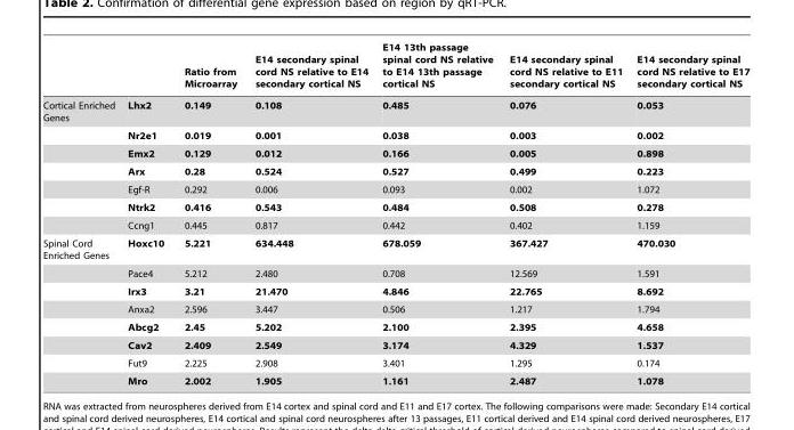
<table><thead><tr><td></td><td></td><td>Ratio from Microarray</td><td>E14 secondary spinal cord NS relative to E14 secondary cortical NS</td><td>E14 13th passage spinal cord NS relative to E14 13th passage cortical NS</td><td>E14 secondary spinal cord NS relative to E11 secondary cortical NS</td><td>E14 secondary spinal cord NS relative to E17 secondary cortical NS</td></tr></thead><tbody><tr><td rowspan="7">Cortical Enriched Genes</td><td>Lhx2</td><td>0.149</td><td>0.108</td><td>0.485</td><td>0.076</td><td>0.053</td></tr><tr><td>Nr2e1</td><td>0.019</td><td>0.001</td><td>0.038</td><td>0.003</td><td>0.002</td></tr><tr><td>Emx2</td><td>0.129</td><td>0.012</td><td>0.166</td><td>0.005</td><td>0.898</td></tr><tr><td>Arx</td><td>0.28</td><td>0.524</td><td>0.527</td><td>0.499</td><td>0.223</td></tr><tr><td>Egf-R</td><td>0.292</td><td>0.006</td><td>0.093</td><td>0.002</td><td>1.072</td></tr><tr><td>Ntrk2</td><td>0.416</td><td>0.543</td><td>0.484</td><td>0.508</td><td>0.278</td></tr><tr><td>Ccng1</td><td>0.445</td><td>0.817</td><td>0.442</td><td>0.402</td><td>1.159</td></tr><tr><td rowspan="8">Spinal Cord Enriched Genes</td><td>Hoxc10</td><td>5.221</td><td>634.448</td><td>678.059</td><td>367.427</td><td>470.030</td></tr><tr><td>Pace4</td><td>5.212</td><td>2.480</td><td>0.708</td><td>12.569</td><td>1.591</td></tr><tr><td>Irx3</td><td>3.21</td><td>21.470</td><td>4.846</td><td>22.765</td><td>8.692</td></tr><tr><td>Anxa2</td><td>2.596</td><td>3.447</td><td>0.506</td><td>1.217</td><td>1.794</td></tr><tr><td>Abcg2</td><td>2.45</td><td>5.202</td><td>2.100</td><td>2.395</td><td>4.658</td></tr><tr><td>Cav2</td><td>2.409</td><td>2.549</td><td>3.174</td><td>4.329</td><td>1.537</td></tr><tr><td>Fut9</td><td>2.225</td><td>2.908</td><td>3.401</td><td>1.295</td><td>0.174</td></tr><tr><td>Mro</td><td>2.002</td><td>1.905</td><td>1.161</td><td>2.487</td><td>1.078</td></tr></tbody></table>